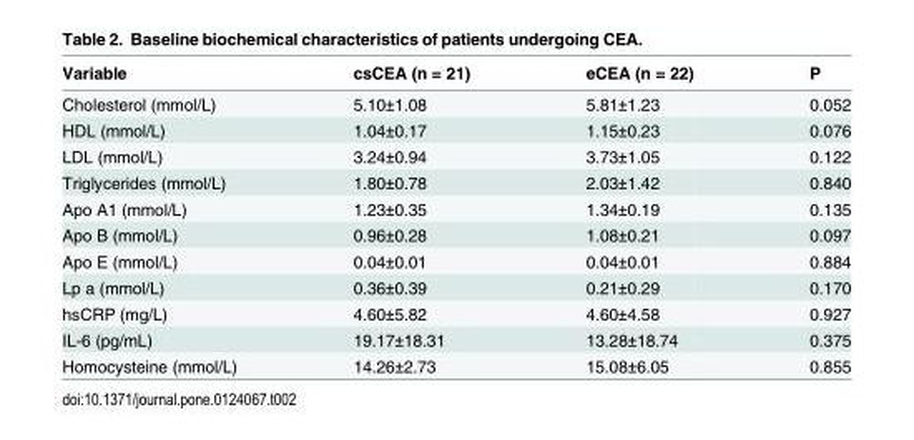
<table><thead><tr><td>Variable</td><td>csCEA (n = 21)</td><td>eCEA (n = 22)</td><td>P</td></tr></thead><tbody><tr><td>Cholesterol (mmol/L)</td><td>5.10±1.08</td><td>5.81±1.23</td><td>0.052</td></tr><tr><td>HDL (mmol/L)</td><td>1.04±0.17</td><td>1.15±0.23</td><td>0.076</td></tr><tr><td>LDL (mmol/L)</td><td>3.24±0.94</td><td>3.73±1.05</td><td>0.122</td></tr><tr><td>Triglycerides (mmol/L)</td><td>1.80±0.78</td><td>2.03±1.42</td><td>0.840</td></tr><tr><td>Apo A1 (mmol/L)</td><td>1.23±0.35</td><td>1.34±0.19</td><td>0.135</td></tr><tr><td>Apo B (mmol/L)</td><td>0.96±0.28</td><td>1.08±0.21</td><td>0.097</td></tr><tr><td>Apo E (mmol/L)</td><td>0.04±0.01</td><td>0.04±0.01</td><td>0.884</td></tr><tr><td>Lp a (mmol/L)</td><td>0.36±0.39</td><td>0.21±0.29</td><td>0.170</td></tr><tr><td>hsCRP (mg/L)</td><td>4.60±5.82</td><td>4.60±4.58</td><td>0.927</td></tr><tr><td>IL-6 (pg/mL)</td><td>19.17±18.31</td><td>13.28±18.74</td><td>0.375</td></tr><tr><td>Homocysteine (mmol/L)</td><td>14.26±2.73</td><td>15.08±6.05</td><td>0.855</td></tr></tbody></table>